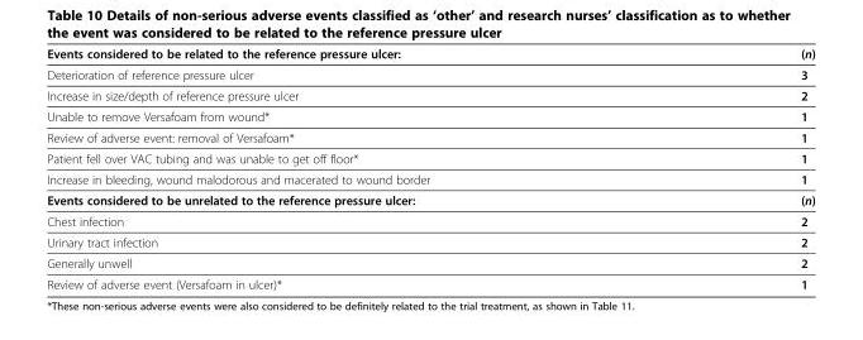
<table><thead><tr><td>Events considered to be related to the reference pressure ulcer:</td><td>(n)</td></tr></thead><tbody><tr><td>Deterioration of reference pressure ulcer</td><td>3</td></tr><tr><td>Increase in size/depth of reference pressure ulcer</td><td>2</td></tr><tr><td>Unable to remove Versafoam from wound*</td><td>1</td></tr><tr><td>Review of adverse event: removal of Versafoam*</td><td>1</td></tr><tr><td>Patient fell over VAC tubing and was unable to get off floor*</td><td>1</td></tr><tr><td>Increase in bleeding, wound malodorous and macerated to wound border</td><td>1</td></tr><tr><td>Events considered to be unrelated to the reference pressure ulcer:</td><td>(n)</td></tr><tr><td>Chest infection</td><td>2</td></tr><tr><td>Urinary tract infection</td><td>2</td></tr><tr><td>Generally unwell</td><td>2</td></tr><tr><td>Review of adverse event (Versafoam in ulcer)*</td><td>1</td></tr></tbody></table>